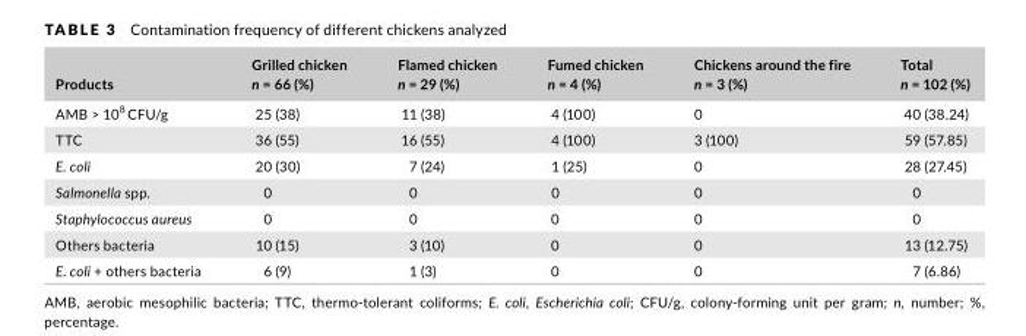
<table><thead><tr><td>Products</td><td>Grilled chicken n = 66 (%)</td><td>Flamed chicken n = 29 (%)</td><td>Fumed chicken n = 4 (%)</td><td>Chickens around the fire n = 3 (%)</td><td>Total n = 102 (%)</td></tr></thead><tbody><tr><td>AMB &gt; 10<sup>8</sup> CFU/g</td><td>25 (38)</td><td>11 (38)</td><td>4 (100)</td><td>0</td><td>40 (38.24)</td></tr><tr><td>TTC</td><td>36 (55)</td><td>16 (55)</td><td>4 (100)</td><td>3 (100)</td><td>59 (57.85)</td></tr><tr><td>E. coli</td><td>20 (30)</td><td>7 (24)</td><td>1 (25)</td><td>0</td><td>28 (27.45)</td></tr><tr><td>Salmonella spp.</td><td>0</td><td>0</td><td>0</td><td>0</td><td>0</td></tr><tr><td>Staphylococcus aureus</td><td>0</td><td>0</td><td>0</td><td>0</td><td>0</td></tr><tr><td>Others bacteria</td><td>10 (15)</td><td>3 (10)</td><td>0</td><td>0</td><td>13 (12.75)</td></tr><tr><td>E. coli + others bacteria</td><td>6 (9)</td><td>1 (3)</td><td>0</td><td>0</td><td>7 (6.86)</td></tr></tbody></table>